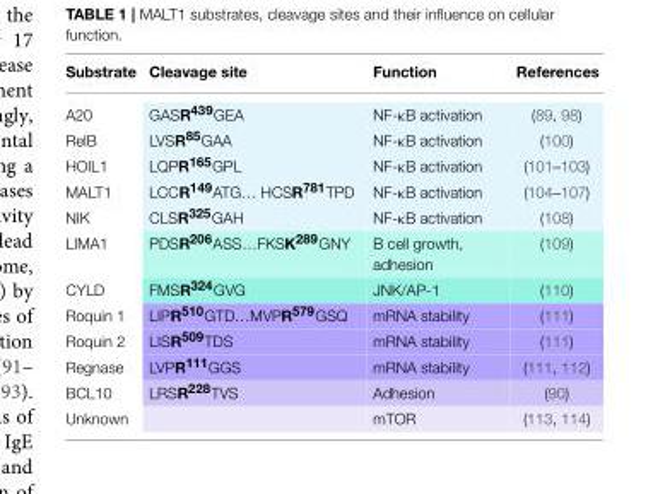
<table><thead><tr><td>Substrate</td><td>Cleavage site</td><td>Function</td><td>References</td></tr></thead><tbody><tr><td>A20</td><td>GASR<sup>439</sup>GEA</td><td>NF-κB activation</td><td>(89, 98)</td></tr><tr><td>RelB</td><td>LVSR<sup>85</sup>GAA</td><td>NF-κB activation</td><td>(100)</td></tr><tr><td>HOIL1</td><td>LQPR<sup>165</sup>GPL</td><td>NF-κB activation</td><td>(101–103)</td></tr><tr><td>MALT1</td><td>LCCR<sup>149</sup>ATG… HCSR<sup>781</sup>TPD</td><td>NF-κB activation</td><td>(104–107)</td></tr><tr><td>NIK</td><td>CLSR<sup>325</sup>GAH</td><td>NF-κB activation</td><td>(108)</td></tr><tr><td>LIMA1</td><td>PDSR<sup>206</sup>ASS…FKSK<sup>289</sup>GNY</td><td>B cell growth, adhesion</td><td>(109)</td></tr><tr><td>CYLD</td><td>FMSR<sup>324</sup>GVG</td><td>JNK/AP-1</td><td>(110)</td></tr><tr><td>Roquin 1</td><td>LIPR<sup>510</sup>GTD…MVPR<sup>579</sup>GSQ</td><td>mRNA stability</td><td>(111)</td></tr><tr><td>Roquin 2</td><td>LISR<sup>509</sup>TDS</td><td>mRNA stability</td><td>(111)</td></tr><tr><td>Regnase</td><td>LVPR<sup>111</sup>GGS</td><td>mRNA stability</td><td>(111, 112)</td></tr><tr><td>BCL10</td><td>LRSR<sup>228</sup>TVS</td><td>Adhesion</td><td>(90)</td></tr><tr><td>Unknown</td><td></td><td>mTOR</td><td>(113, 114)</td></tr></tbody></table>